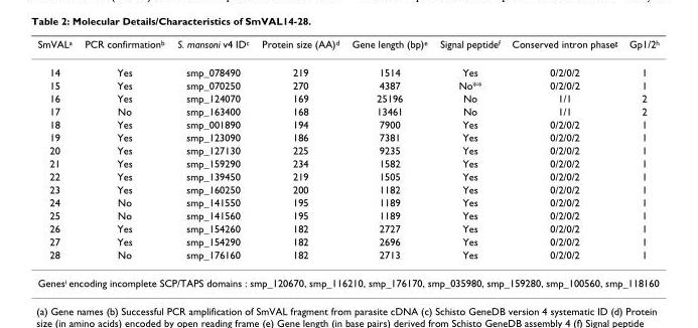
<table><thead><tr><td>SmVAL<sup>a</sup></td><td>PCR confirmation<sup>b</sup></td><td>S. mansoni v4 ID<sup>c</sup></td><td>Protein size (AA)<sup>d</sup></td><td>Gene length (bp)<sup>e</sup></td><td>Signal peptide<sup>f</sup></td><td>Conserved intron phase<sup>g</sup></td><td>Gp1/2<sup>h</sup></td></tr></thead><tbody><tr><td>14</td><td>Yes</td><td>smp_078490</td><td>219</td><td>1514</td><td>Yes</td><td>0/2/0/2</td><td>1</td></tr><tr><td>15</td><td>Yes</td><td>smp_070250</td><td>270</td><td>4387</td><td>No**</td><td>0/2/0/2</td><td>1</td></tr><tr><td>16</td><td>Yes</td><td>smp_124070</td><td>169</td><td>25196</td><td>No</td><td>1/1</td><td>2</td></tr><tr><td>17</td><td>No</td><td>smp_163400</td><td>168</td><td>13461</td><td>No</td><td>1/1</td><td>2</td></tr><tr><td>18</td><td>Yes</td><td>smp_001890</td><td>194</td><td>7900</td><td>Yes</td><td>0/2/0/2</td><td>1</td></tr><tr><td>19</td><td>Yes</td><td>smp_123090</td><td>186</td><td>7381</td><td>Yes</td><td>0/2/0/2</td><td>1</td></tr><tr><td>20</td><td>Yes</td><td>smp_127130</td><td>225</td><td>9235</td><td>Yes</td><td>0/2/0/2</td><td>1</td></tr><tr><td>21</td><td>Yes</td><td>smp_159290</td><td>234</td><td>1582</td><td>Yes</td><td>0/2/0/2</td><td>1</td></tr><tr><td>22</td><td>Yes</td><td>smp_139450</td><td>219</td><td>1505</td><td>Yes</td><td>0/2/0/2</td><td>1</td></tr><tr><td>23</td><td>Yes</td><td>smp_160250</td><td>200</td><td>1182</td><td>Yes</td><td>0/2/0/2</td><td>1</td></tr><tr><td>24</td><td>No</td><td>smp_141550</td><td>195</td><td>1189</td><td>Yes</td><td>0/2/0/2</td><td>1</td></tr><tr><td>25</td><td>No</td><td>smp_141560</td><td>195</td><td>1189</td><td>Yes</td><td>0/2/0/2</td><td>1</td></tr><tr><td>26</td><td>Yes</td><td>smp_154260</td><td>182</td><td>2727</td><td>Yes</td><td>0/2/0/2</td><td>1</td></tr><tr><td>27</td><td>Yes</td><td>smp_154290</td><td>182</td><td>2696</td><td>Yes</td><td>0/2/0/2</td><td>1</td></tr><tr><td>28</td><td>No</td><td>smp_176160</td><td>182</td><td>2713</td><td>Yes</td><td>0/2/0/2</td><td>1</td></tr><tr><td colspan="8">Genes<sup>i</sup> encoding incomplete SCP/TAPS domains : smp_120670, smp_116210, smp_176170, smp_035980, smp_159280, smp_100560, smp_118160</td></tr></tbody></table>